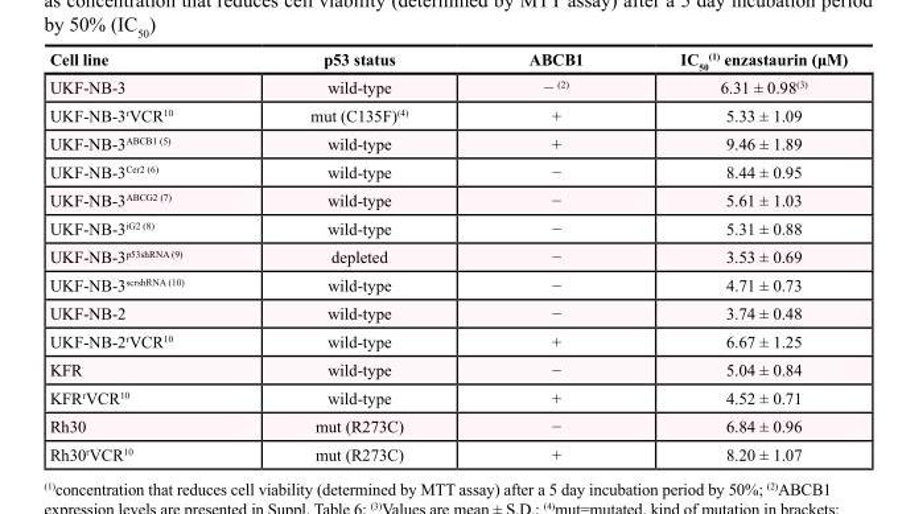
<table><thead><tr><td>Cell line</td><td>p53 status</td><td>ABCB1</td><td>IC<sub>50</sub> <sup>(1)</sup> enzastaurin (μM)</td></tr></thead><tbody><tr><td>UKF-NB-3</td><td>wild-type</td><td>− <sup>(2)</sup></td><td>6.31 ± 0.98<sup>(3)</sup></td></tr><tr><td>UKF-NB-3<sup>r</sup>VCR<sup>10</sup></td><td>mut (C135F)<sup>(4)</sup></td><td>+</td><td>5.33 ± 1.09</td></tr><tr><td>UKF-NB-3<sup>ABCB1 (5)</sup></td><td>wild-type</td><td>+</td><td>9.46 ± 1.89</td></tr><tr><td>UKF-NB-3<sup>Cer2 (6)</sup></td><td>wild-type</td><td>−</td><td>8.44 ± 0.95</td></tr><tr><td>UKF-NB-3<sup>ABCG2 (7)</sup></td><td>wild-type</td><td>−</td><td>5.61 ± 1.03</td></tr><tr><td>UKF-NB-3<sup>iG2 (8)</sup></td><td>wild-type</td><td>−</td><td>5.31 ± 0.88</td></tr><tr><td>UKF-NB-3<sup>p53shRNA (9)</sup></td><td>depleted</td><td>−</td><td>3.53 ± 0.69</td></tr><tr><td>UKF-NB-3<sup>scrshRNA (10)</sup></td><td>wild-type</td><td>−</td><td>4.71 ± 0.73</td></tr><tr><td>UKF-NB-2</td><td>wild-type</td><td>−</td><td>3.74 ± 0.48</td></tr><tr><td>UKF-NB-2<sup>r</sup>VCR<sup>10</sup></td><td>wild-type</td><td>+</td><td>6.67 ± 1.25</td></tr><tr><td>KFR</td><td>wild-type</td><td>−</td><td>5.04 ± 0.84</td></tr><tr><td>KFR<sup>r</sup>VCR<sup>10</sup></td><td>wild-type</td><td>+</td><td>4.52 ± 0.71</td></tr><tr><td>Rh30</td><td>mut (R273C)</td><td>−</td><td>6.84 ± 0.96</td></tr><tr><td>Rh30<sup>r</sup>VCR<sup>10</sup></td><td>mut (R273C)</td><td>+</td><td>8.20 ± 1.07</td></tr></tbody></table>